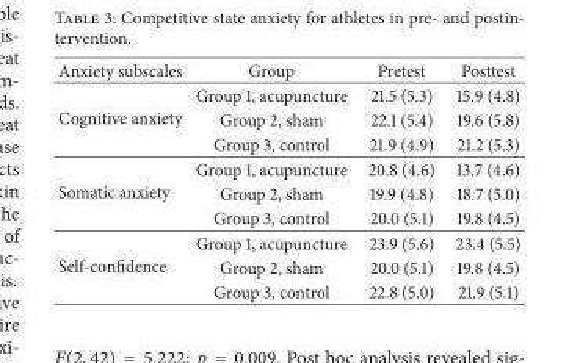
<table><thead><tr><td>Anxiety subscales</td><td>Group</td><td>Pretest</td><td>Posttest</td></tr></thead><tbody><tr><td rowspan="3">Cognitive anxiety</td><td>Group 1, acupuncture</td><td>21.5 (5.3)</td><td>15.9 (4.8)</td></tr><tr><td>Group 2, sham</td><td>22.1 (5.4)</td><td>19.6 (5.8)</td></tr><tr><td>Group 3, control</td><td>21.9 (4.9)</td><td>21.2 (5.3)</td></tr><tr><td rowspan="3">Somatic anxiety</td><td>Group 1, acupuncture</td><td>20.8 (4.6)</td><td>13.7 (4.6)</td></tr><tr><td>Group 2, sham</td><td>19.9 (4.8)</td><td>18.7 (5.0)</td></tr><tr><td>Group 3, control</td><td>20.0 (5.1)</td><td>19.8 (4.5)</td></tr><tr><td rowspan="3">Self-confidence</td><td>Group 1, acupuncture</td><td>23.9 (5.6)</td><td>23.4 (5.5)</td></tr><tr><td>Group 2, sham</td><td>20.0 (5.1)</td><td>19.8 (4.5)</td></tr><tr><td>Group 3, control</td><td>22.8 (5.0)</td><td>21.9 (5.1)</td></tr></tbody></table>